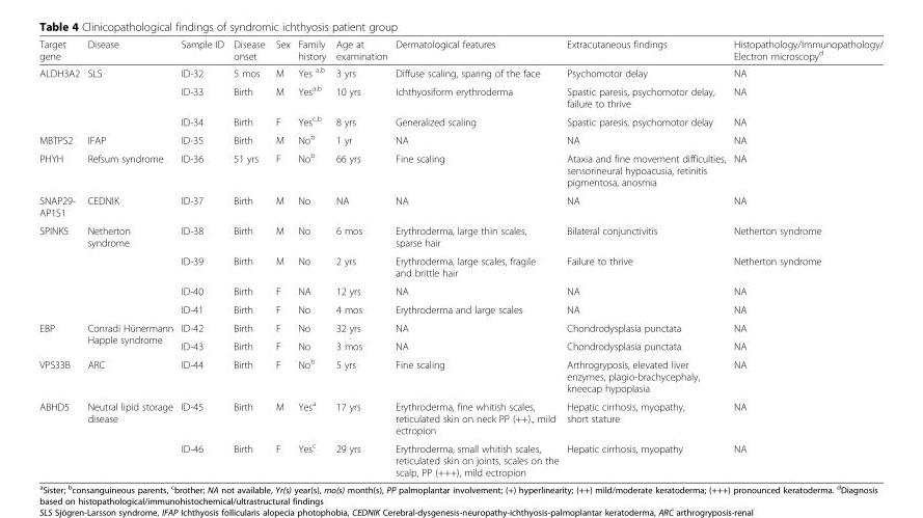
<table><thead><tr><td>Target gene</td><td>Disease</td><td>Sample ID</td><td>Disease onset</td><td>Sex</td><td>Family history</td><td>Age at examination</td><td>Dermatological features</td><td>Extracutaneous findings</td><td>Histopathology/Immunopathology/ Electron microscopy<sup>d</sup></td></tr></thead><tbody><tr><td rowspan="3">ALDH3A2</td><td rowspan="3">SLS</td><td>ID-32</td><td>5 mos</td><td>M</td><td>Yes <sup>a,b</sup></td><td>3 yrs</td><td>Diffuse scaling, sparing of the face</td><td>Psychomotor delay</td><td>NA</td></tr><tr><td>ID-33</td><td>Birth</td><td>M</td><td>Yes<sup>a,b</sup></td><td>10 yrs</td><td>Ichthyosiform erythroderma</td><td>Spastic paresis, psychomotor delay, failure to thrive</td><td>NA</td></tr><tr><td>ID-34</td><td>Birth</td><td>F</td><td>Yes<sup>c,b</sup></td><td>8 yrs</td><td>Generalized scaling</td><td>Spastic paresis, psychomotor delay</td><td>NA</td></tr><tr><td>MBTPS2</td><td>IFAP</td><td>ID-35</td><td>Birth</td><td>M</td><td>No<sup>b</sup></td><td>1 yr</td><td>NA</td><td>NA</td><td>NA</td></tr><tr><td>PHYH</td><td>Refsum syndrome</td><td>ID-36</td><td>51 yrs</td><td>F</td><td>No<sup>b</sup></td><td>66 yrs</td><td>Fine scaling</td><td>Ataxia and fine movement difficulties, sensorineural hypoacusia, retinitis pigmentosa, anosmia</td><td>NA</td></tr><tr><td>SNAP29- AP1S1</td><td>CEDNIK</td><td>ID-37</td><td>Birth</td><td>M</td><td>No</td><td>NA</td><td>NA</td><td>NA</td><td>NA</td></tr><tr><td rowspan="4">SPINK5</td><td rowspan="4">Netherton syndrome</td><td>ID-38</td><td>Birth</td><td>M</td><td>No</td><td>6 mos</td><td>Erythroderma, large thin scales, sparse hair</td><td>Bilateral conjunctivitis</td><td>Netherton syndrome</td></tr><tr><td>ID-39</td><td>Birth</td><td>M</td><td>No</td><td>2 yrs</td><td>Erythroderma, large scales, fragile and brittle hair</td><td>Failure to thrive</td><td>Netherton syndrome</td></tr><tr><td>ID-40</td><td>Birth</td><td>F</td><td>NA</td><td>12 yrs</td><td>NA</td><td>NA</td><td>NA</td></tr><tr><td>ID-41</td><td>Birth</td><td>F</td><td>No</td><td>4 mos</td><td>Erythroderma and large scales</td><td>NA</td><td>NA</td></tr><tr><td rowspan="2">EBP</td><td rowspan="2">Conradi Hünermann Happle syndrome</td><td>ID-42</td><td>Birth</td><td>F</td><td>No</td><td>32 yrs</td><td>NA</td><td>Chondrodysplasia punctata</td><td>NA</td></tr><tr><td>ID-43</td><td>Birth</td><td>F</td><td>No</td><td>3 mos</td><td>NA</td><td>Chondrodysplasia punctata</td><td>NA</td></tr><tr><td>VPS33B</td><td>ARC</td><td>ID-44</td><td>Birth</td><td>F</td><td>No<sup>b</sup></td><td>5 yrs</td><td>Fine scaling</td><td>Arthrogryposis, elevated liver enzymes, plagio-brachycephaly, kneecap hypoplasia</td><td>NA</td></tr><tr><td rowspan="2">ABHD5</td><td rowspan="2">Neutral lipid storage disease</td><td>ID-45</td><td>Birth</td><td>M</td><td>Yes<sup>a</sup></td><td>17 yrs</td><td>Erythroderma, fine whitish scales, reticulated skin on neck PP (++)., mild ectropion</td><td>Hepatic cirrhosis, myopathy, short stature</td><td>NA</td></tr><tr><td>ID-46</td><td>Birth</td><td>F</td><td>Yes<sup>c</sup></td><td>29 yrs</td><td>Erythroderma, small whitish scales, reticulated skin on joints, scales on the scalp, PP (+++), mild ectropion</td><td>Hepatic cirrhosis, myopathy</td><td>NA</td></tr></tbody></table>